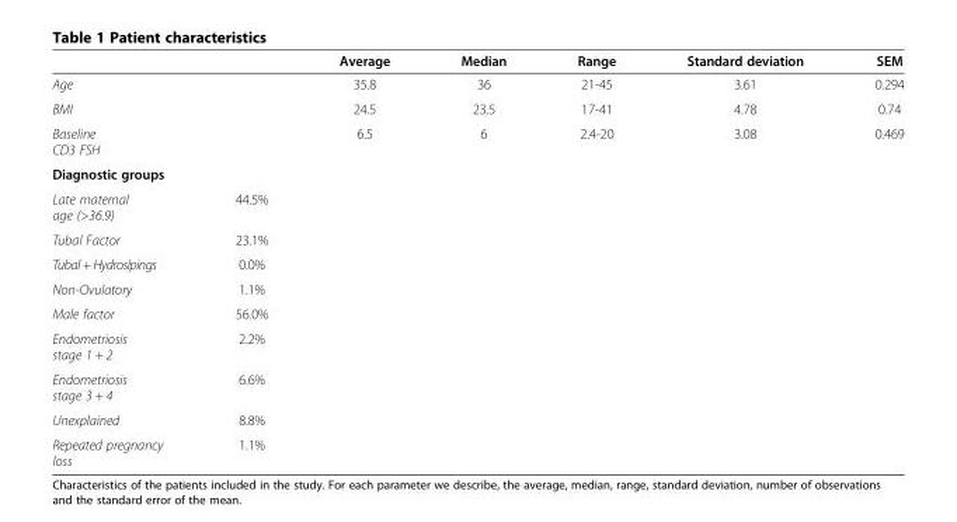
<table><thead><tr><td></td><td></td><td>Average</td><td>Median</td><td>Range</td><td>Standard deviation</td><td>SEM</td></tr></thead><tbody><tr><td colspan="2">Age</td><td>35.8</td><td>36</td><td>21-45</td><td>3.61</td><td>0.294</td></tr><tr><td colspan="2">BMI</td><td>24.5</td><td>23.5</td><td>17-41</td><td>4.78</td><td>0.74</td></tr><tr><td colspan="2">Baseline CD3 FSH</td><td>6.5</td><td>6</td><td>2.4-20</td><td>3.08</td><td>0.469</td></tr><tr><td colspan="7">Diagnostic groups</td></tr><tr><td>Late maternal age (&gt;36.9)</td><td>44.5%</td><td></td><td></td><td></td><td></td><td></td></tr><tr><td>Tubal Factor</td><td>23.1%</td><td></td><td></td><td></td><td></td><td></td></tr><tr><td>Tubal + Hydroslpings</td><td>0.0%</td><td></td><td></td><td></td><td></td><td></td></tr><tr><td>Non-Ovulatory</td><td>1.1%</td><td></td><td></td><td></td><td></td><td></td></tr><tr><td>Male factor</td><td>56.0%</td><td></td><td></td><td></td><td></td><td></td></tr><tr><td>Endometriosis stage 1 + 2</td><td>2.2%</td><td></td><td></td><td></td><td></td><td></td></tr><tr><td>Endometriosis stage 3 + 4</td><td>6.6%</td><td></td><td></td><td></td><td></td><td></td></tr><tr><td>Unexplained</td><td>8.8%</td><td></td><td></td><td></td><td></td><td></td></tr><tr><td>Repeated pregnancy loss</td><td>1.1%</td><td></td><td></td><td></td><td></td><td></td></tr></tbody></table>